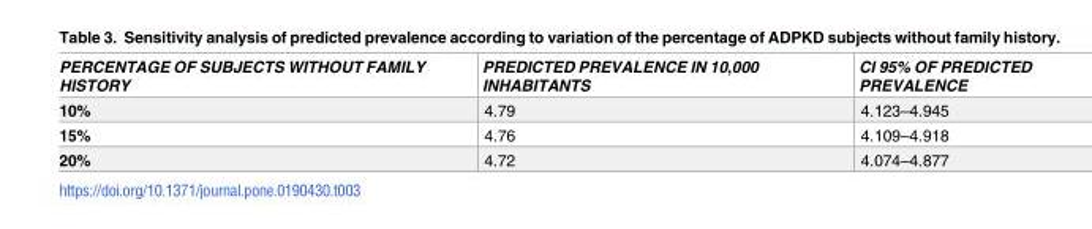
<table><thead><tr><td>PERCENTAGE OF SUBJECTS WITHOUT FAMILY HISTORY</td><td>PREDICTED PREVALENCE IN 10,000 INHABITANTS</td><td>CI 95% OF PREDICTED PREVALENCE</td></tr></thead><tbody><tr><td>10%</td><td>4.79</td><td>4.123–4.945</td></tr><tr><td>15%</td><td>4.76</td><td>4.109–4.918</td></tr><tr><td>20%</td><td>4.72</td><td>4.074–4.877</td></tr></tbody></table>